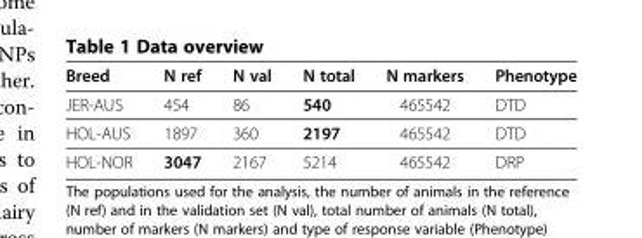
<table><thead><tr><td>Breed</td><td>N ref</td><td>N val</td><td>N total</td><td>N markers</td><td>Phenotype</td></tr></thead><tbody><tr><td>JER-AUS</td><td>454</td><td>86</td><td>540</td><td>465542</td><td>DTD</td></tr><tr><td>HOL-AUS</td><td>1897</td><td>360</td><td>2197</td><td>465542</td><td>DTD</td></tr><tr><td>HOL-NOR</td><td>3047</td><td>2167</td><td>5214</td><td>465542</td><td>DRP</td></tr></tbody></table>